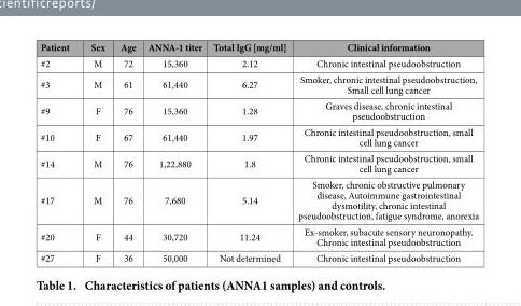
<table><thead><tr><td>Patient</td><td>Sex</td><td>Age</td><td>ANNA-1 titer</td><td>Total IgG [mg/ml]</td><td>Clinical information</td></tr></thead><tbody><tr><td>#2</td><td>M</td><td>72</td><td>15,360</td><td>2.12</td><td>Chronic intestinal pseudoobstruction</td></tr><tr><td>#3</td><td>M</td><td>61</td><td>61,440</td><td>6.27</td><td>Smoker, chronic intestinal pseudoobstruction, Small cell lung cancer</td></tr><tr><td>#9</td><td>F</td><td>76</td><td>15,360</td><td>1.28</td><td>Graves disease, chronic intestinal pseudoobstruction</td></tr><tr><td>#10</td><td>F</td><td>67</td><td>61,440</td><td>1.97</td><td>Chronic intestinal pseudoobstruction, small cell lung cancer</td></tr><tr><td>#14</td><td>M</td><td>76</td><td>1,22,880</td><td>1.8</td><td>Chronic intestinal pseudoobstruction, small cell lung cancer</td></tr><tr><td>#17</td><td>M</td><td>76</td><td>7,680</td><td>5.14</td><td>Smoker, chronic obstructive pulmonary disease, Autoimmune gastrointestinal dysmotility, chronic intestinal pseudoobstruction, fatigue syndrome, anorexia</td></tr><tr><td>#20</td><td>F</td><td>44</td><td>30,720</td><td>11.24</td><td>Ex-smoker, subacute sensory neuronopathy. Chronic intestinal pseudoobstruction</td></tr><tr><td>#27</td><td>F</td><td>36</td><td>50,000</td><td>Not determined</td><td>Chronic intestinal pseudoobstruction</td></tr></tbody></table>